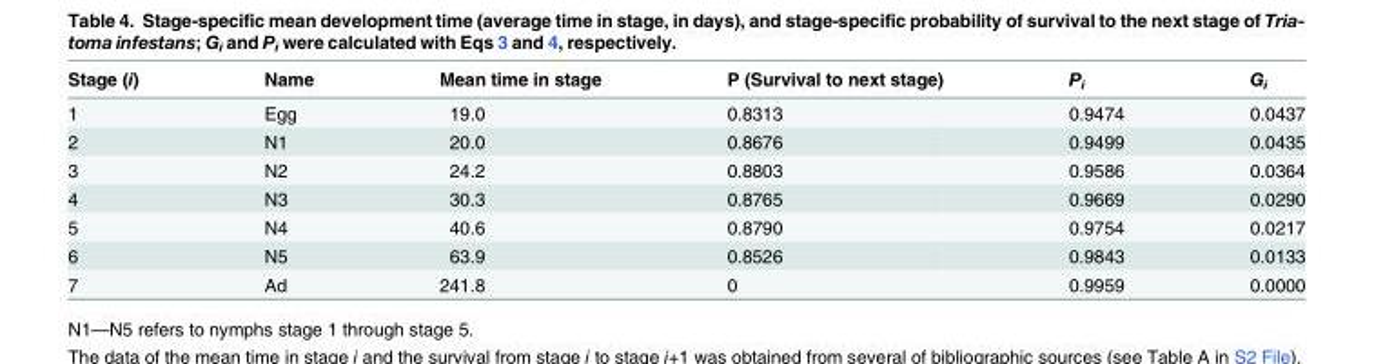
<table><thead><tr><td>Stage (i)</td><td>Name</td><td>Mean time in stage</td><td>P (Survival to next stage)</td><td>P<sub>i</sub></td><td>G<sub>i</sub></td></tr></thead><tbody><tr><td>1</td><td>Egg</td><td>19.0</td><td>0.8313</td><td>0.9474</td><td>0.0437</td></tr><tr><td>2</td><td>N1</td><td>20.0</td><td>0.8676</td><td>0.9499</td><td>0.0435</td></tr><tr><td>3</td><td>N2</td><td>24.2</td><td>0.8803</td><td>0.9586</td><td>0.0364</td></tr><tr><td>4</td><td>N3</td><td>30.3</td><td>0.8765</td><td>0.9669</td><td>0.0290</td></tr><tr><td>5</td><td>N4</td><td>40.6</td><td>0.8790</td><td>0.9754</td><td>0.0217</td></tr><tr><td>6</td><td>N5</td><td>63.9</td><td>0.8526</td><td>0.9843</td><td>0.0133</td></tr><tr><td>7</td><td>Ad</td><td>241.8</td><td>0</td><td>0.9959</td><td>0.0000</td></tr></tbody></table>